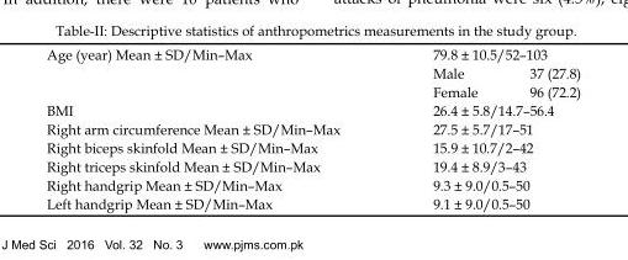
<table><thead><tr><td rowspan="2">Age (year) Mean ± SD/Min–Max</td><td colspan="2">79.8 ± 10.5/52–103</td></tr><tr><td>Male</td><td>37 (27.8)</td></tr></thead><tbody><tr><td></td><td>Female</td><td>96 (72.2)</td></tr><tr><td>BMI</td><td colspan="2">26.4 ± 5.8/14.7–56.4</td></tr><tr><td>Right arm circumference Mean ± SD/Min–Max</td><td colspan="2">27.5 ± 5.7/17–51</td></tr><tr><td>Right biceps skinfold Mean ± SD/Min–Max</td><td colspan="2">15.9 ± 10.7/2–42</td></tr><tr><td>Right triceps skinfold Mean ± SD/Min–Max</td><td colspan="2">19.4 ± 8.9/3–43</td></tr><tr><td>Right handgrip Mean ± SD/Min–Max</td><td colspan="2">9.3 ± 9.0/0.5–50</td></tr><tr><td>Left handgrip Mean ± SD/Min–Max</td><td colspan="2">9.1 ± 9.0/0.5–50</td></tr></tbody></table>